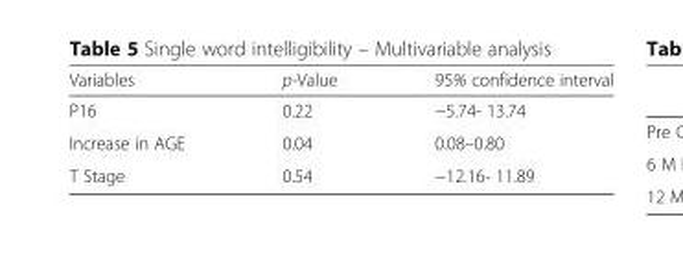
<table><thead><tr><td>Variables</td><td>p-Value</td><td>95% confidence interval</td></tr></thead><tbody><tr><td>P16</td><td>0.22</td><td>−5.74- 13.74</td></tr><tr><td>Increase in AGE</td><td>0.04</td><td>0.08–0.80</td></tr><tr><td>T Stage</td><td>0.54</td><td>−12.16- 11.89</td></tr></tbody></table>